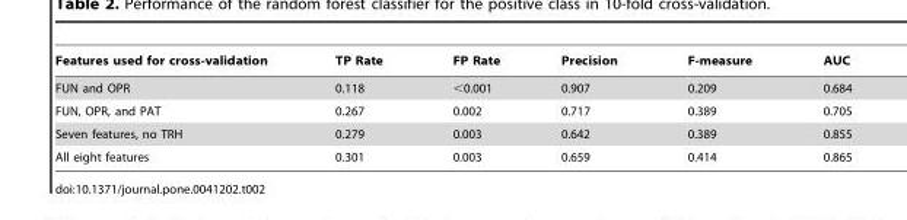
<table><thead><tr><td>Features used for cross-validation</td><td>TP Rate</td><td>FP Rate</td><td>Precision</td><td>F-measure</td><td>AUC</td></tr></thead><tbody><tr><td>FUN and OPR</td><td>0.118</td><td>&lt;0.001</td><td>0.907</td><td>0.209</td><td>0.684</td></tr><tr><td>FUN, OPR, and PAT</td><td>0.267</td><td>0.002</td><td>0.717</td><td>0.389</td><td>0.705</td></tr><tr><td>Seven features, no TRH</td><td>0.279</td><td>0.003</td><td>0.642</td><td>0.389</td><td>0.855</td></tr><tr><td>All eight features</td><td>0.301</td><td>0.003</td><td>0.659</td><td>0.414</td><td>0.865</td></tr></tbody></table>